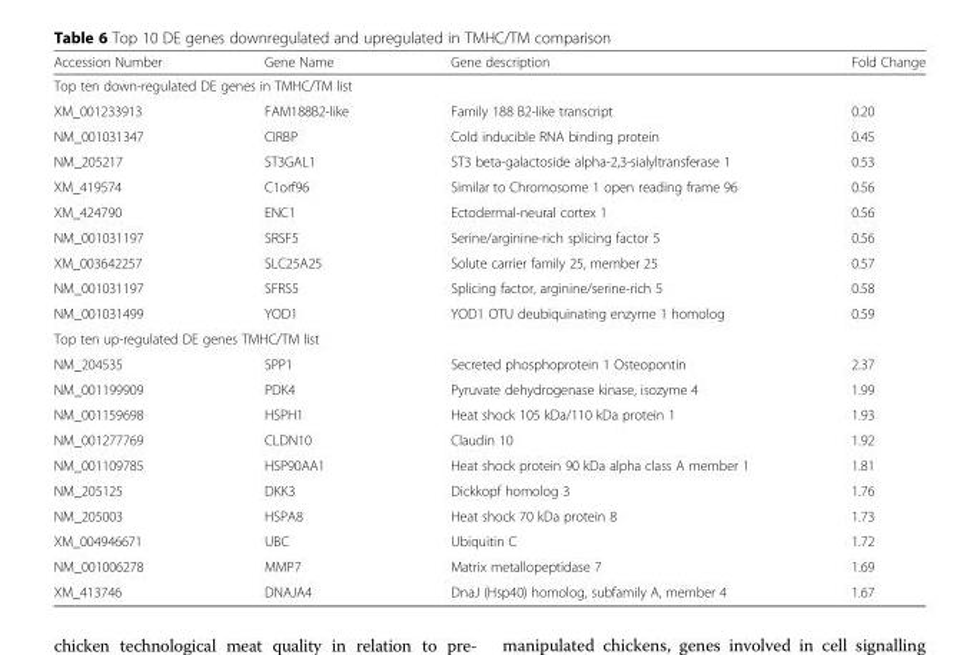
<table><thead><tr><td>Accession Number</td><td>Gene Name</td><td>Gene description</td><td>Fold Change</td></tr></thead><tbody><tr><td colspan="4">Top ten down-regulated DE genes in TMHC/TM list</td></tr><tr><td>XM_001233913</td><td>FAM188B2-like</td><td>Family 188 B2-like transcript</td><td>0.20</td></tr><tr><td>NM_001031347</td><td>CIRBP</td><td>Cold inducible RNA binding protein</td><td>0.45</td></tr><tr><td>NM_205217</td><td>ST3GAL1</td><td>ST3 beta-galactoside alpha-2,3-sialyltransferase 1</td><td>0.53</td></tr><tr><td>XM_419574</td><td>C1orf96</td><td>Similar to Chromosome 1 open reading frame 96</td><td>0.56</td></tr><tr><td>XM_424790</td><td>ENC1</td><td>Ectodermal-neural cortex 1</td><td>0.56</td></tr><tr><td>NM_001031197</td><td>SRSF5</td><td>Serine/arginine-rich splicing factor 5</td><td>0.56</td></tr><tr><td>XM_003642257</td><td>SLC25A25</td><td>Solute carrier family 25, member 25</td><td>0.57</td></tr><tr><td>NM_001031197</td><td>SFRS5</td><td>Splicing factor, arginine/serine-rich 5</td><td>0.58</td></tr><tr><td>NM_001031499</td><td>YOD1</td><td>YOD1 OTU deubiquinating enzyme 1 homolog</td><td>0.59</td></tr><tr><td colspan="4">Top ten up-regulated DE genes TMHC/TM list</td></tr><tr><td>NM_204535</td><td>SPP1</td><td>Secreted phosphoprotein 1 Osteopontin</td><td>2.37</td></tr><tr><td>NM_001199909</td><td>PDK4</td><td>Pyruvate dehydrogenase kinase, isozyme 4</td><td>1.99</td></tr><tr><td>NM_001159698</td><td>HSPH1</td><td>Heat shock 105 kDa/110 kDa protein 1</td><td>1.93</td></tr><tr><td>NM_001277769</td><td>CLDN10</td><td>Claudin 10</td><td>1.92</td></tr><tr><td>NM_001109785</td><td>HSP90AA1</td><td>Heat shock protein 90 kDa alpha class A member 1</td><td>1.81</td></tr><tr><td>NM_205125</td><td>DKK3</td><td>Dickkopf homolog 3</td><td>1.76</td></tr><tr><td>NM_205003</td><td>HSPA8</td><td>Heat shock 70 kDa protein 8</td><td>1.73</td></tr><tr><td>XM_004946671</td><td>UBC</td><td>Ubiquitin C</td><td>1.72</td></tr><tr><td>NM_001006278</td><td>MMP7</td><td>Matrix metallopeptidase 7</td><td>1.69</td></tr><tr><td>XM_413746</td><td>DNAJA4</td><td>DnaJ (Hsp40) homolog, subfamily A, member 4</td><td>1.67</td></tr></tbody></table>